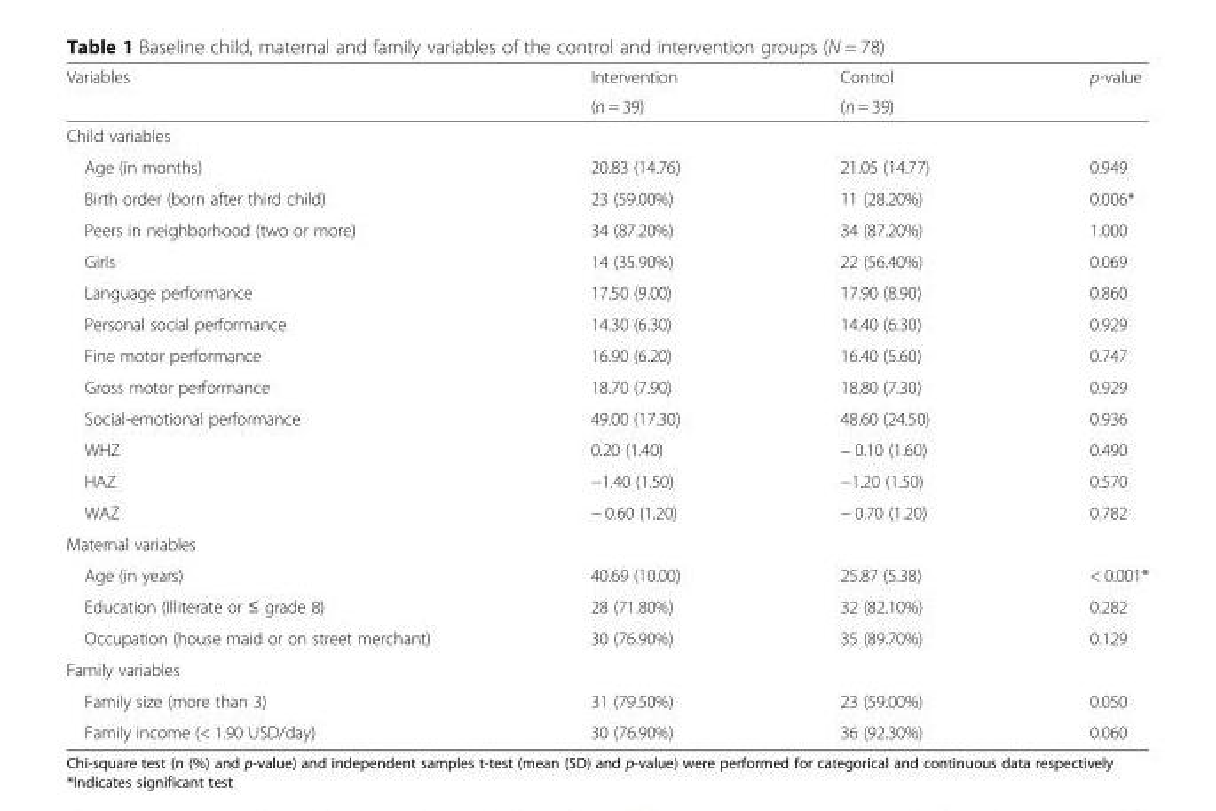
<table><thead><tr><td rowspan="2">Variables</td><td rowspan="2">Intervention (n = 39)</td><td rowspan="2">Control (n = 39)</td><td rowspan="2">p-value</td></tr><tr></tr></thead><tbody><tr><td colspan="4">Child variables</td></tr><tr><td>Age (in months)</td><td>20.83 (14.76)</td><td>21.05 (14.77)</td><td>0.949</td></tr><tr><td>Birth order (born after third child)</td><td>23 (59.00%)</td><td>11 (28.20%)</td><td>0.006*</td></tr><tr><td>Peers in neighborhood (two or more)</td><td>34 (87.20%)</td><td>34 (87.20%)</td><td>1.000</td></tr><tr><td>Girls</td><td>14 (35.90%)</td><td>22 (56.40%)</td><td>0.069</td></tr><tr><td>Language performance</td><td>17.50 (9.00)</td><td>17.90 (8.90)</td><td>0.860</td></tr><tr><td>Personal social performance</td><td>14.30 (6.30)</td><td>14.40 (6.30)</td><td>0.929</td></tr><tr><td>Fine motor performance</td><td>16.90 (6.20)</td><td>16.40 (5.60)</td><td>0.747</td></tr><tr><td>Gross motor performance</td><td>18.70 (7.90)</td><td>18.80 (7.30)</td><td>0.929</td></tr><tr><td>Social-emotional performance</td><td>49.00 (17.30)</td><td>48.60 (24.50)</td><td>0.936</td></tr><tr><td>WHZ</td><td>0.20 (1.40)</td><td>− 0.10 (1.60)</td><td>0.490</td></tr><tr><td>HAZ</td><td>−1.40 (1.50)</td><td>−1.20 (1.50)</td><td>0.570</td></tr><tr><td>WAZ</td><td>− 0.60 (1.20)</td><td>− 0.70 (1.20)</td><td>0.782</td></tr><tr><td colspan="4">Maternal variables</td></tr><tr><td>Age (in years)</td><td>40.69 (10.00)</td><td>25.87 (5.38)</td><td>&lt; 0.001*</td></tr><tr><td>Education (Illiterate or ≤ grade 8)</td><td>28 (71.80%)</td><td>32 (82.10%)</td><td>0.282</td></tr><tr><td>Occupation (house maid or on street merchant)</td><td>30 (76.90%)</td><td>35 (89.70%)</td><td>0.129</td></tr><tr><td colspan="4">Family variables</td></tr><tr><td>Family size (more than 3)</td><td>31 (79.50%)</td><td>23 (59.00%)</td><td>0.050</td></tr><tr><td>Family income (&lt; 1.90 USD/day)</td><td>30 (76.90%)</td><td>36 (92.30%)</td><td>0.060</td></tr></tbody></table>